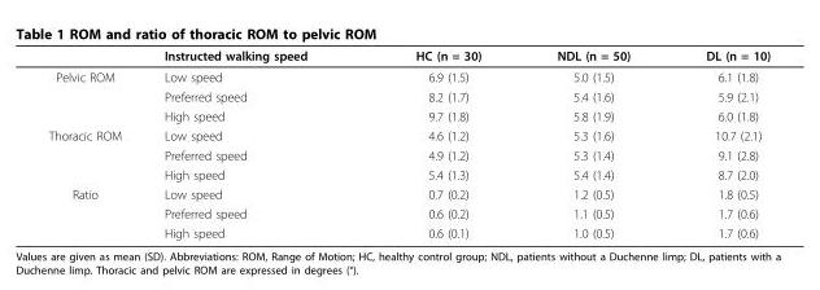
<table><thead><tr><td></td><td>Instructed walking speed</td><td>HC (n = 30)</td><td>NDL (n = 50)</td><td>DL (n = 10)</td></tr></thead><tbody><tr><td rowspan="3">Pelvic ROM</td><td>Low speed</td><td>6.9 (1.5)</td><td>5.0 (1.5)</td><td>6.1 (1.8)</td></tr><tr><td>Preferred speed</td><td>8.2 (1.7)</td><td>5.4 (1.6)</td><td>5.9 (2.1)</td></tr><tr><td>High speed</td><td>9.7 (1.8)</td><td>5.8 (1.9)</td><td>6.0 (1.8)</td></tr><tr><td rowspan="3">Thoracic ROM</td><td>Low speed</td><td>4.6 (1.2)</td><td>5.3 (1.6)</td><td>10.7 (2.1)</td></tr><tr><td>Preferred speed</td><td>4.9 (1.2)</td><td>5.3 (1.4)</td><td>9.1 (2.8)</td></tr><tr><td>High speed</td><td>5.4 (1.3)</td><td>5.4 (1.4)</td><td>8.7 (2.0)</td></tr><tr><td rowspan="3">Ratio</td><td>Low speed</td><td>0.7 (0.2)</td><td>1.2 (0.5)</td><td>1.8 (0.5)</td></tr><tr><td>Preferred speed</td><td>0.6 (0.2)</td><td>1.1 (0.5)</td><td>1.7 (0.6)</td></tr><tr><td>High speed</td><td>0.6 (0.1)</td><td>1.0 (0.5)</td><td>1.7 (0.6)</td></tr></tbody></table>